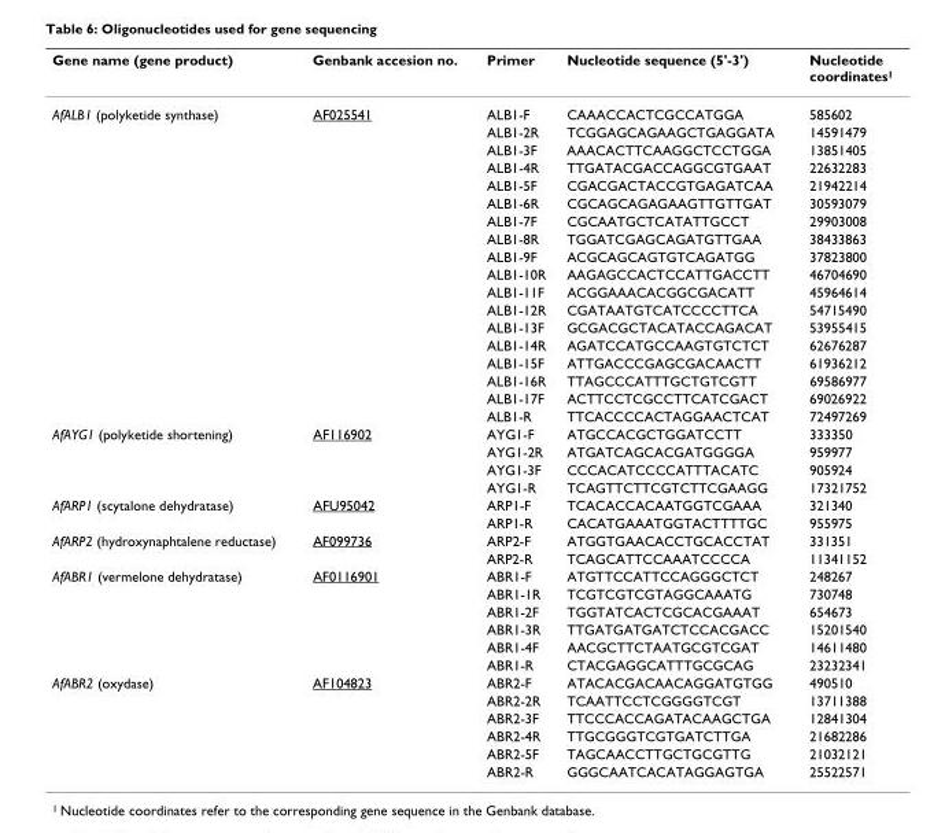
<table><thead><tr><td>Gene name (gene product)</td><td>Genbank accesion no.</td><td>Primer</td><td>Nucleotide sequence (5&#x27;-3&#x27;)</td><td>Nucleotide coordinates<sup>1</sup></td></tr></thead><tbody><tr><td rowspan="18">AfALB1 (polyketide synthase)</td><td>AF025541</td><td>ALB1-F</td><td>CAAACCACTCGCCATGGA</td><td>585602</td></tr><tr><td></td><td>ALB1-2R</td><td>TCGGAGCAGAAGCTGAGGATA</td><td>14591479</td></tr><tr><td></td><td>ALB1-3F</td><td>AAACACTTCAAGGCTCCTGGA</td><td>13851405</td></tr><tr><td></td><td>ALB1-4R</td><td>TTGATACGACCAGGCGTGAAT</td><td>22632283</td></tr><tr><td></td><td>ALB1-5F</td><td>CGACGACTACCGTGAGATCAA</td><td>21942214</td></tr><tr><td></td><td>ALB1-6R</td><td>CGCAGCAGAGAAGTTGTTGAT</td><td>30593079</td></tr><tr><td></td><td>ALB1-7F</td><td>CGCAATGCTCATATTGCCT</td><td>29903008</td></tr><tr><td></td><td>ALB1-8R</td><td>TGGATCGAGCAGATGTTGAA</td><td>38433863</td></tr><tr><td></td><td>ALB1-9F</td><td>ACGCAGCAGTGTCAGATGG</td><td>37823800</td></tr><tr><td></td><td>ALB1-10R</td><td>AAGAGCCACTCCATTGACCTT</td><td>46704690</td></tr><tr><td></td><td>ALB1-11F</td><td>ACGGAAACACGGCGACATT</td><td>45964614</td></tr><tr><td></td><td>ALB1-12R</td><td>CGATAATGTCATCCCCTTCA</td><td>54715490</td></tr><tr><td></td><td>ALB1-13F</td><td>GCGACGCTACATACCAGACAT</td><td>53955415</td></tr><tr><td></td><td>ALB1-14R</td><td>AGATCCATGCCAAGTGTCTCT</td><td>62676287</td></tr><tr><td></td><td>ALB1-15F</td><td>ATTGACCCGAGCGACAACTT</td><td>61936212</td></tr><tr><td></td><td>ALB1-16R</td><td>TTAGCCCATTTGCTGTCGTT</td><td>69586977</td></tr><tr><td></td><td>ALB1-17F</td><td>ACTTCCTCGCCTTCATCGACT</td><td>69026922</td></tr><tr><td></td><td>ALB1-R</td><td>TTCACCCCACTAGGAACTCAT</td><td>72497269</td></tr><tr><td rowspan="4">AfAYG1 (polyketide shortening)</td><td>AF116902</td><td>AYG1-F</td><td>ATGCCACGCTGGATCCTT</td><td>333350</td></tr><tr><td></td><td>AYG1-2R</td><td>ATGATCAGCACGATGGGGA</td><td>959977</td></tr><tr><td></td><td>AYG1-3F</td><td>CCCACATCCCCATTTACATC</td><td>905924</td></tr><tr><td></td><td>AYG1-R</td><td>TCAGTTCTTCGTCTTCGAAGG</td><td>17321752</td></tr><tr><td rowspan="2">AfARP1 (scytalone dehydratase)</td><td>AFU95042</td><td>ARP1-F</td><td>TCACACCACAATGGTCGAAA</td><td>321340</td></tr><tr><td></td><td>ARP1-R</td><td>CACATGAAATGGTACTTTTGC</td><td>955975</td></tr><tr><td rowspan="2">AfARP2 (hydroxynaphtalene reductase)</td><td>AF099736</td><td>ARP2-F</td><td>ATGGTGAACACCTGCACCTAT</td><td>331351</td></tr><tr><td></td><td>ARP2-R</td><td>TCAGCATTCCAAATCCCCA</td><td>11341152</td></tr><tr><td rowspan="6">AfABR1 (vermelone dehydratase)</td><td>AF0116901</td><td>ABR1-F</td><td>ATGTTCCATTCCAGGGCTCT</td><td>248267</td></tr><tr><td></td><td>ABR1-1R</td><td>TCGTCGTCGTAGGCAAATG</td><td>730748</td></tr><tr><td></td><td>ABR1-2F</td><td>TGGTATCACTCGCACGAAAT</td><td>654673</td></tr><tr><td></td><td>ABR1-3R</td><td>TTGATGATGATCTCCACGACC</td><td>15201540</td></tr><tr><td></td><td>ABR1-4F</td><td>AACGCTTCTAATGCGTCGAT</td><td>14611480</td></tr><tr><td></td><td>ABR1-R</td><td>CTACGAGGCATTTGCGCAG</td><td>23232341</td></tr><tr><td rowspan="6">AfABR2 (oxydase)</td><td>AF104823</td><td>ABR2-F</td><td>ATACACGACAACAGGATGTGG</td><td>490510</td></tr><tr><td></td><td>ABR2-2R</td><td>TCAATTCCTCGGGGTCGT</td><td>13711388</td></tr><tr><td></td><td>ABR2-3F</td><td>TTCCCACCAGATACAAGCTGA</td><td>12841304</td></tr><tr><td></td><td>ABR2-4R</td><td>TTGCGGGTCGTGATCTTGA</td><td>21682286</td></tr><tr><td></td><td>ABR2-5F</td><td>TAGCAACCTTGCTGCGTTG</td><td>21032121</td></tr><tr><td></td><td>ABR2-R</td><td>GGGCAATCACATAGGAGTGA</td><td>25522571</td></tr></tbody></table>